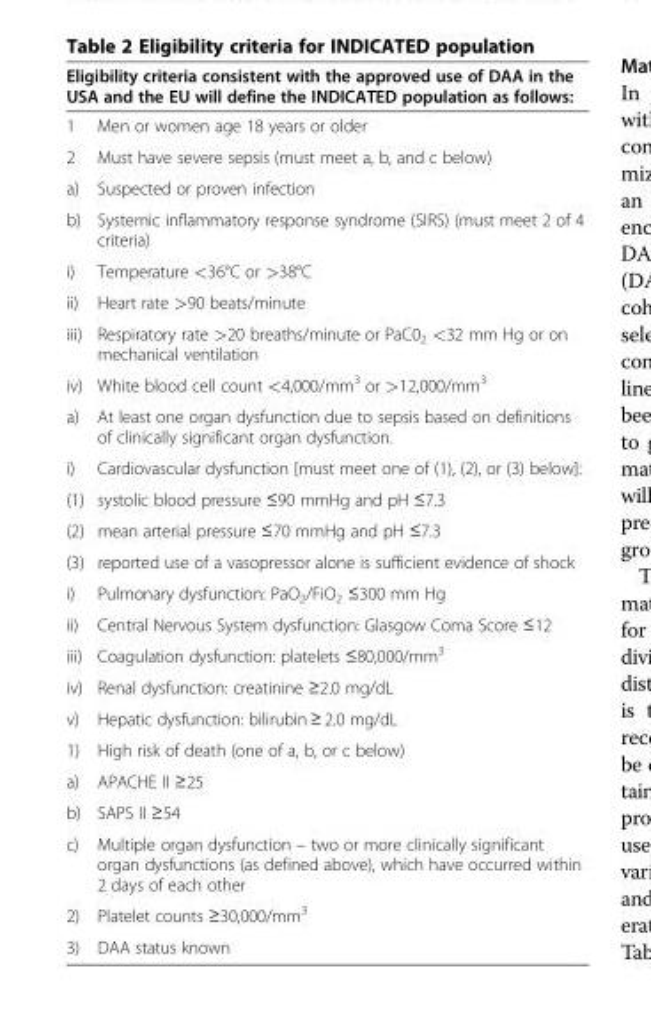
<table><thead><tr><td colspan="2">Eligibility criteria consistent with the approved use of DAA in the USA and the EU will define the INDICATED population as follows:</td></tr><tr><td>1</td><td>Men or women age 18 years or older</td></tr></thead><tbody><tr><td>2</td><td>Must have severe sepsis (must meet a, b, and c below)</td></tr><tr><td>a)</td><td>Suspected or proven infection</td></tr><tr><td>b)</td><td>Systemic inflammatory response syndrome (SIRS) (must meet 2 of 4 criteria)</td></tr><tr><td>i)</td><td>Temperature &lt;36°C or &gt;38°C</td></tr><tr><td>ii)</td><td>Heart rate &gt;90 beats/minute</td></tr><tr><td>iii)</td><td>Respiratory rate &gt;20 breaths/minute or PaC0<sub>2</sub> &lt;32 mm Hg or on mechanical ventilation</td></tr><tr><td>iv)</td><td>White blood cell count &lt;4,000/mm<sup>3</sup> or &gt;12,000/mm<sup>3</sup></td></tr><tr><td>a)</td><td>At least one organ dysfunction due to sepsis based on definitions of clinically significant organ dysfunction.</td></tr><tr><td>i)</td><td>Cardiovascular dysfunction [must meet one of (1), (2), or (3) below]:</td></tr><tr><td>(1)</td><td>systolic blood pressure ≤90 mmHg and pH ≤7.3</td></tr><tr><td>(2)</td><td>mean arterial pressure ≤70 mmHg and pH ≤7.3</td></tr><tr><td>(3)</td><td>reported use of a vasopressor alone is sufficient evidence of shock</td></tr><tr><td>i)</td><td>Pulmonary dysfunction: PaO<sub>2</sub>/FiO<sub>2</sub> ≤300 mm Hg</td></tr><tr><td>ii)</td><td>Central Nervous System dysfunction: Glasgow Coma Score ≤12</td></tr><tr><td>iii)</td><td>Coagulation dysfunction: platelets ≤80,000/mm<sup>3</sup></td></tr><tr><td>iv)</td><td>Renal dysfunction: creatinine ≥2.0 mg/dL</td></tr><tr><td>v)</td><td>Hepatic dysfunction: bilirubin ≥ 2.0 mg/dL</td></tr><tr><td>1)</td><td>High risk of death (one of a, b, or c below)</td></tr><tr><td>a)</td><td>APACHE II ≥25</td></tr><tr><td>b)</td><td>SAPS II ≥54</td></tr><tr><td>c)</td><td>Multiple organ dysfunction – two or more clinically significant organ dysfunctions (as defined above), which have occurred within 2 days of each other</td></tr><tr><td>2)</td><td>Platelet counts ≥30,000/mm<sup>3</sup></td></tr><tr><td>3)</td><td>DAA status known</td></tr></tbody></table>